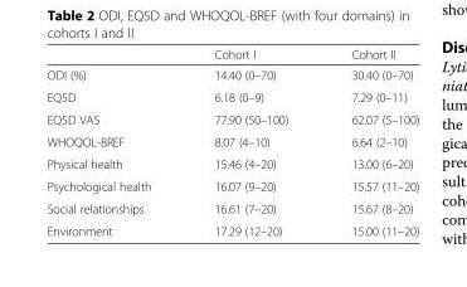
<table><thead><tr><td></td><td>Cohort I</td><td>Cohort II</td></tr></thead><tbody><tr><td>ODI (%)</td><td>14.40 (0–70)</td><td>30.40 (0–70)</td></tr><tr><td>EQ5D</td><td>6.18 (0–9)</td><td>7.29 (0–11)</td></tr><tr><td>EQ5D VAS</td><td>77.90 (50–100)</td><td>62.07 (5–100)</td></tr><tr><td>WHOQOL-BREF</td><td>8.07 (4–10)</td><td>6.64 (2–10)</td></tr><tr><td>Physical health</td><td>15.46 (4–20)</td><td>13.00 (6–20)</td></tr><tr><td>Psychological health</td><td>16.07 (9–20)</td><td>15.57 (11–20)</td></tr><tr><td>Social relationships</td><td>16.61 (7–20)</td><td>15.67 (8–20)</td></tr><tr><td>Environment</td><td>17.29 (12–20)</td><td>15.00 (11–20)</td></tr></tbody></table>